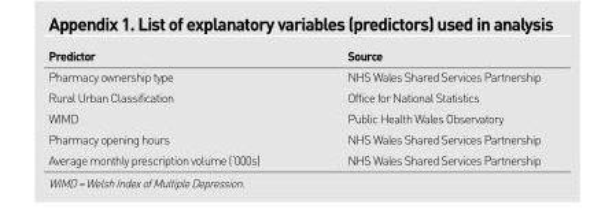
<table><thead><tr><td>Predictor</td><td>Source</td></tr></thead><tbody><tr><td>Pharmacy ownership type</td><td>NHS Wales Shared Services Partnership</td></tr><tr><td>Rural Urban Classification</td><td>Office for National Statistics</td></tr><tr><td>WIMD</td><td>Public Health Wales Observatory</td></tr><tr><td>Pharmacy opening hours</td><td>NHS Wales Shared Services Partnership</td></tr><tr><td>Average monthly prescription volume (‘000s)</td><td>NHS Wales Shared Services Partnership</td></tr></tbody></table>